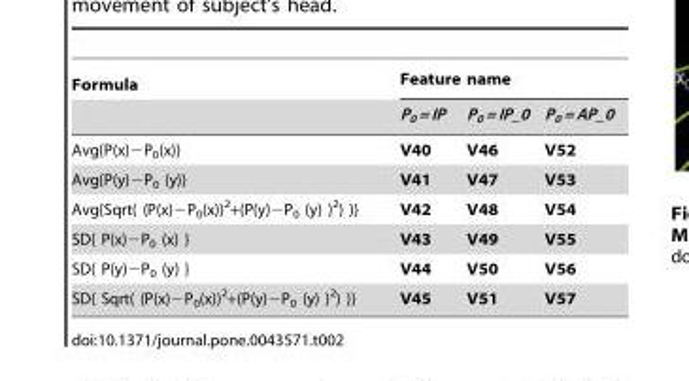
<table><thead><tr><td rowspan="2">Formula</td><td colspan="3">Feature name</td></tr><tr><td>P<sub>0</sub> = IP</td><td>P<sub>0</sub> = IP_0</td><td>P<sub>0</sub> = AP_0</td></tr></thead><tbody><tr><td>Avg{P(x)−P<sub>0</sub>(x)}</td><td>V40</td><td>V46</td><td>V52</td></tr><tr><td>Avg{P(y)−P<sub>0</sub> (y)}</td><td>V41</td><td>V47</td><td>V53</td></tr><tr><td>Avg{Sqrt( (P(x)−P<sub>0</sub>(x))<sup>2</sup>+(P(y)−P<sub>0</sub> (y) )<sup>2</sup>) )}</td><td>V42</td><td>V48</td><td>V54</td></tr><tr><td>SD{ P(x)−P<sub>0</sub> (x) }</td><td>V43</td><td>V49</td><td>V55</td></tr><tr><td>SD{ P(y)−P<sub>0</sub> (y) }</td><td>V44</td><td>V50</td><td>V56</td></tr><tr><td>SD{ Sqrt( (P(x)−P<sub>0</sub>(x))<sup>2</sup>+(P(y)−P<sub>0</sub> (y) )<sup>2</sup>) )}</td><td>V45</td><td>V51</td><td>V57</td></tr></tbody></table>